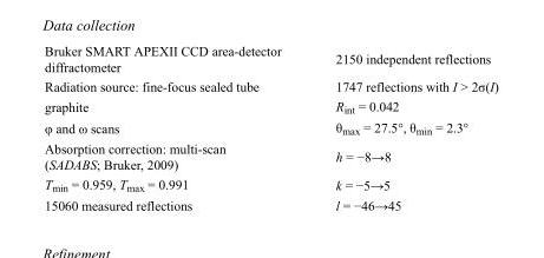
<table><tbody><tr><td>Bruker SMART APEXII CCD area-detector diffractometer</td><td>2150 independent reflections</td></tr><tr><td>Radiation source: fine-focus sealed tube</td><td>1747 reflections with I &gt; 2σ(I)</td></tr><tr><td>graphite</td><td>R<sub>int</sub> = 0.042</td></tr><tr><td>φ and ω scans</td><td>θ<sub>max</sub> = 27.5°, θ<sub>min</sub> = 2.3°</td></tr><tr><td>Absorption correction: multi-scan (SADABS; Bruker, 2009)</td><td>h = −8→8</td></tr><tr><td>T<sub>min</sub> = 0.959, T<sub>max</sub> = 0.991</td><td>k = −5→5</td></tr><tr><td>15060 measured reflections</td><td>l = −46→45</td></tr></tbody></table>